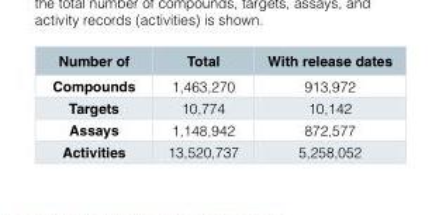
<table><thead><tr><td>Number of</td><td>Total</td><td>With release dates</td></tr></thead><tbody><tr><td>Compounds</td><td>1,463,270</td><td>913,972</td></tr><tr><td>Targets</td><td>10,774</td><td>10,142</td></tr><tr><td>Assays</td><td>1,148,942</td><td>872,577</td></tr><tr><td>Activities</td><td>13,520,737</td><td>5,258,052</td></tr></tbody></table>